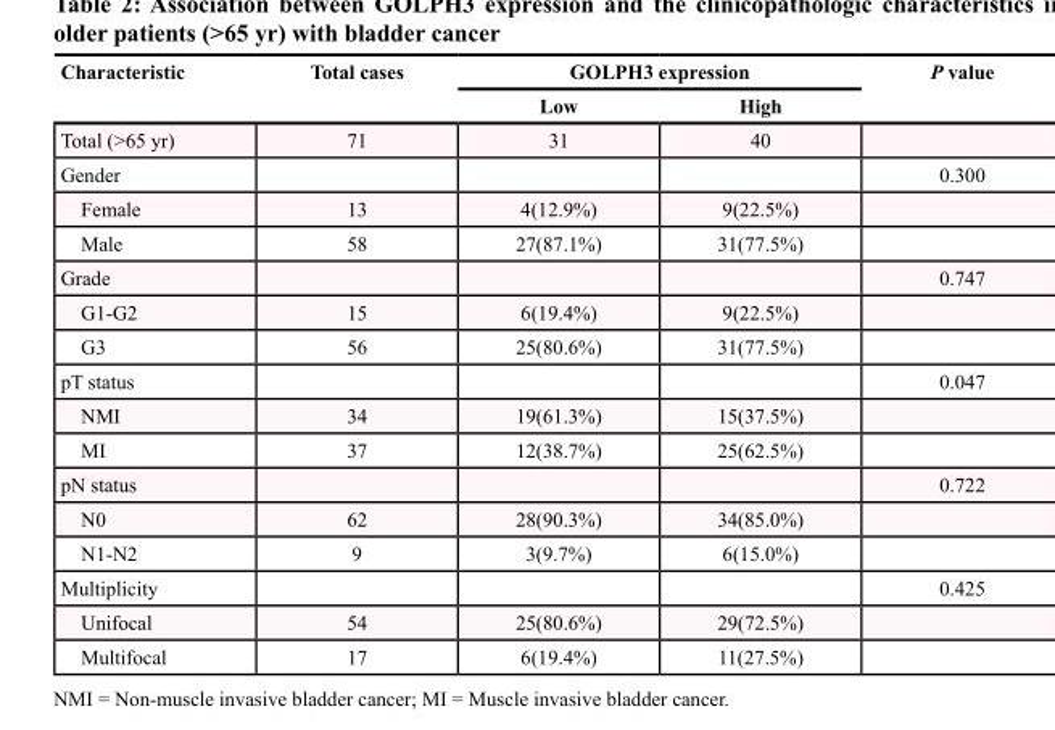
<table><thead><tr><td rowspan="2">Characteristic</td><td rowspan="2">Total cases</td><td colspan="2">GOLPH3 expression</td><td rowspan="2">P value</td></tr><tr><td>Low</td><td>High</td></tr></thead><tbody><tr><td>Total (&gt;65 yr)</td><td>71</td><td>31</td><td>40</td><td></td></tr><tr><td>Gender</td><td></td><td></td><td></td><td>0.300</td></tr><tr><td>Female</td><td>13</td><td>4(12.9%)</td><td>9(22.5%)</td><td></td></tr><tr><td>Male</td><td>58</td><td>27(87.1%)</td><td>31(77.5%)</td><td></td></tr><tr><td>Grade</td><td></td><td></td><td></td><td>0.747</td></tr><tr><td>G1-G2</td><td>15</td><td>6(19.4%)</td><td>9(22.5%)</td><td></td></tr><tr><td>G3</td><td>56</td><td>25(80.6%)</td><td>31(77.5%)</td><td></td></tr><tr><td>pT status</td><td></td><td></td><td></td><td>0.047</td></tr><tr><td>NMI</td><td>34</td><td>19(61.3%)</td><td>15(37.5%)</td><td></td></tr><tr><td>MI</td><td>37</td><td>12(38.7%)</td><td>25(62.5%)</td><td></td></tr><tr><td>pN status</td><td></td><td></td><td></td><td>0.722</td></tr><tr><td>N0</td><td>62</td><td>28(90.3%)</td><td>34(85.0%)</td><td></td></tr><tr><td>N1-N2</td><td>9</td><td>3(9.7%)</td><td>6(15.0%)</td><td></td></tr><tr><td>Multiplicity</td><td></td><td></td><td></td><td>0.425</td></tr><tr><td>Unifocal</td><td>54</td><td>25(80.6%)</td><td>29(72.5%)</td><td></td></tr><tr><td>Multifocal</td><td>17</td><td>6(19.4%)</td><td>11(27.5%)</td><td></td></tr></tbody></table>